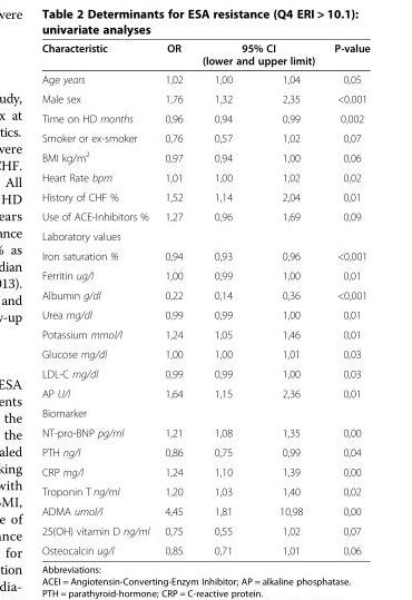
<table><thead><tr><td rowspan="2">Characteristic Age years</td><td rowspan="2">OR 1,02</td><td colspan="2">95% CI (lower and upper limit)</td><td rowspan="2">P-value 0,05</td></tr><tr><td>1,00</td><td>1,04</td></tr></thead><tbody><tr><td>Male sex</td><td>1,76</td><td>1,32</td><td>2,35</td><td>&lt;0,001</td></tr><tr><td>Time on HD months</td><td>0,96</td><td>0,94</td><td>0,99</td><td>0,002</td></tr><tr><td>Smoker or ex-smoker</td><td>0,76</td><td>0,57</td><td>1,02</td><td>0,07</td></tr><tr><td>BMI kg/m<sup>2</sup></td><td>0,97</td><td>0,94</td><td>1,00</td><td>0,06</td></tr><tr><td>Heart Rate bpm</td><td>1,01</td><td>1,00</td><td>1,02</td><td>0,02</td></tr><tr><td>History of CHF %</td><td>1,52</td><td>1,14</td><td>2,04</td><td>0,01</td></tr><tr><td>Use of ACE-Inhibitors %</td><td>1,27</td><td>0,96</td><td>1,69</td><td>0,09</td></tr><tr><td colspan="5">Laboratory values</td></tr><tr><td>Iron saturation %</td><td>0,94</td><td>0,93</td><td>0,96</td><td>&lt;0,001</td></tr><tr><td>Ferritin ug/l</td><td>1,00</td><td>0,99</td><td>1,00</td><td>0,01</td></tr><tr><td>Albumin g/dl</td><td>0,22</td><td>0,14</td><td>0,36</td><td>&lt;0,001</td></tr><tr><td>Urea mg/dl</td><td>0,99</td><td>0,99</td><td>1,00</td><td>0,01</td></tr><tr><td>Potassium mmol/l</td><td>1,24</td><td>1,05</td><td>1,46</td><td>0,01</td></tr><tr><td>Glucose mg/dl</td><td>1,00</td><td>1,00</td><td>1,01</td><td>0,03</td></tr><tr><td>LDL-C mg/dl</td><td>0,99</td><td>0,99</td><td>1,00</td><td>0,03</td></tr><tr><td>AP U/l</td><td>1,64</td><td>1,15</td><td>2,36</td><td>0,01</td></tr><tr><td colspan="5">Biomarker</td></tr><tr><td>NT-pro-BNP pg/ml</td><td>1,21</td><td>1,08</td><td>1,35</td><td>0,00</td></tr><tr><td>PTH ng/l</td><td>0,86</td><td>0,75</td><td>0,99</td><td>0,04</td></tr><tr><td>CRP mg/l</td><td>1,24</td><td>1,10</td><td>1,39</td><td>0,00</td></tr><tr><td>Troponin T ng/ml</td><td>1,20</td><td>1,03</td><td>1,40</td><td>0,02</td></tr><tr><td>ADMA umol/l</td><td>4,45</td><td>1,81</td><td>10,98</td><td>0,00</td></tr><tr><td>25(OH) vitamin D ng/ml</td><td>0,75</td><td>0,55</td><td>1,02</td><td>0,07</td></tr><tr><td>Osteocalcin ug/l</td><td>0,85</td><td>0,71</td><td>1,01</td><td>0,06</td></tr></tbody></table>